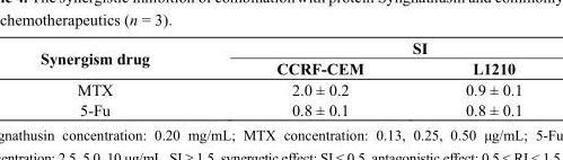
<table><thead><tr><td rowspan="2">Synergism drug</td><td colspan="2">SI</td></tr><tr><td>CCRF-CEM</td><td>L1210</td></tr></thead><tbody><tr><td>MTX</td><td>2.0 ± 0.2</td><td>0.9 ± 0.1</td></tr><tr><td>5-Fu</td><td>0.8 ± 0.1</td><td>0.8 ± 0.1</td></tr></tbody></table>